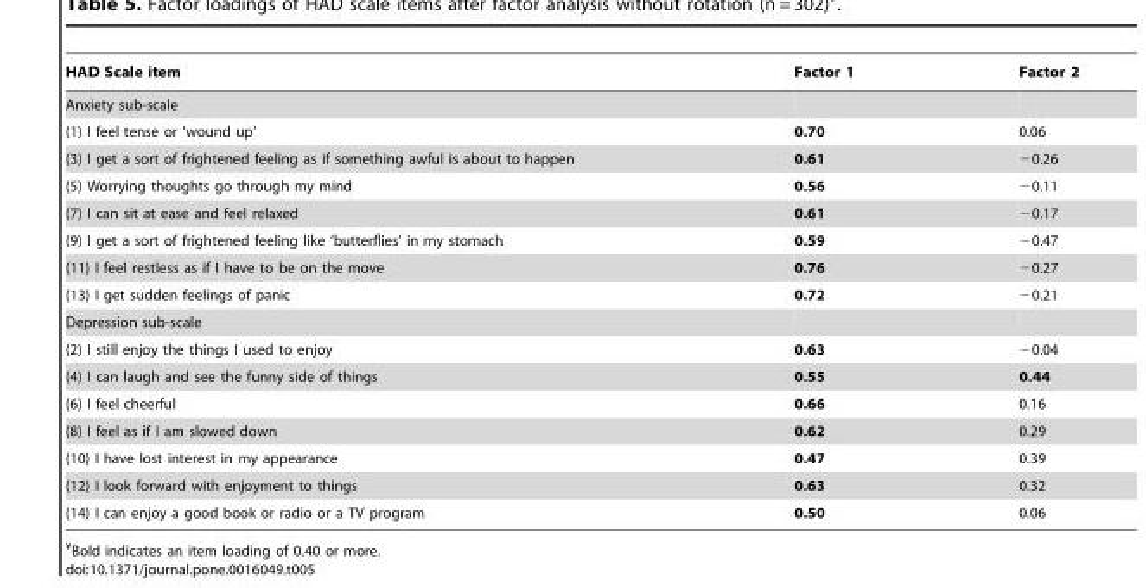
<table><thead><tr><td>HAD Scale item</td><td>Factor 1</td><td>Factor 2</td></tr></thead><tbody><tr><td colspan="3">Anxiety sub-scale</td></tr><tr><td>(1) I feel tense or ‘wound up’</td><td>0.70</td><td>0.06</td></tr><tr><td>(3) I get a sort of frightened feeling as if something awful is about to happen</td><td>0.61</td><td>−0.26</td></tr><tr><td>(5) Worrying thoughts go through my mind</td><td>0.56</td><td>−0.11</td></tr><tr><td>(7) I can sit at ease and feel relaxed</td><td>0.61</td><td>−0.17</td></tr><tr><td>(9) I get a sort of frightened feeling like ‘butterflies’ in my stomach</td><td>0.59</td><td>−0.47</td></tr><tr><td>(11) I feel restless as if I have to be on the move</td><td>0.76</td><td>−0.27</td></tr><tr><td>(13) I get sudden feelings of panic</td><td>0.72</td><td>−0.21</td></tr><tr><td colspan="3">Depression sub-scale</td></tr><tr><td>(2) I still enjoy the things I used to enjoy</td><td>0.63</td><td>−0.04</td></tr><tr><td>(4) I can laugh and see the funny side of things</td><td>0.55</td><td>0.44</td></tr><tr><td>(6) I feel cheerful</td><td>0.66</td><td>0.16</td></tr><tr><td>(8) I feel as if I am slowed down</td><td>0.62</td><td>0.29</td></tr><tr><td>(10) I have lost interest in my appearance</td><td>0.47</td><td>0.39</td></tr><tr><td>(12) I look forward with enjoyment to things</td><td>0.63</td><td>0.32</td></tr><tr><td>(14) I can enjoy a good book or radio or a TV program</td><td>0.50</td><td>0.06</td></tr></tbody></table>